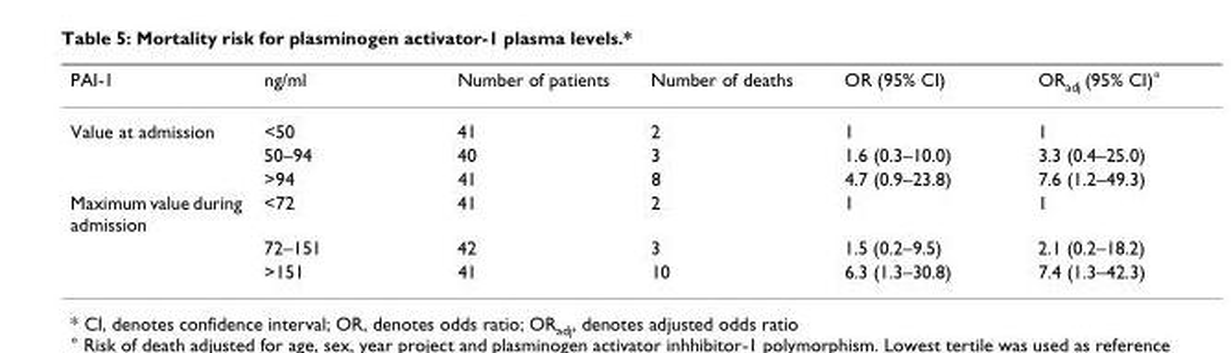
<table><thead><tr><td>PAI-1</td><td>ng/ml</td><td>Number of patients</td><td>Number of deaths</td><td>OR (95% CI)</td><td>OR<sub>adj</sub> (95% CI)°</td></tr></thead><tbody><tr><td rowspan="3">Value at admission</td><td>&lt;50</td><td>41</td><td>2</td><td>1</td><td>1</td></tr><tr><td>50–94</td><td>40</td><td>3</td><td>1.6 (0.3–10.0)</td><td>3.3 (0.4–25.0)</td></tr><tr><td>&gt;94</td><td>41</td><td>8</td><td>4.7 (0.9–23.8)</td><td>7.6 (1.2–49.3)</td></tr><tr><td rowspan="3">Maximum value during admission</td><td>&lt;72</td><td>41</td><td>2</td><td>1</td><td>1</td></tr><tr><td>72–151</td><td>42</td><td>3</td><td>1.5 (0.2–9.5)</td><td>2.1 (0.2–18.2)</td></tr><tr><td>&gt;151</td><td>41</td><td>10</td><td>6.3 (1.3–30.8)</td><td>7.4 (1.3–42.3)</td></tr></tbody></table>